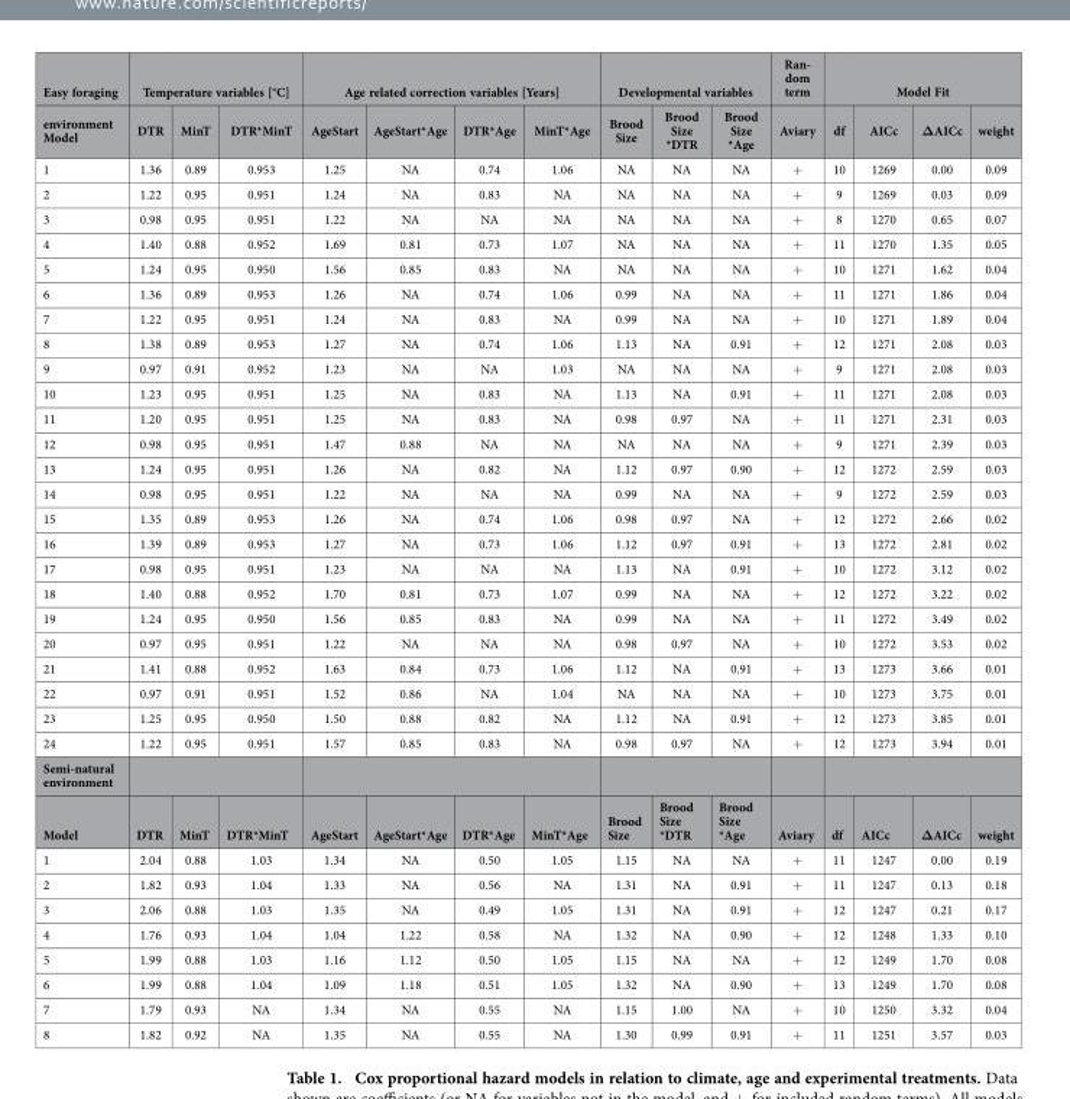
<table><thead><tr><td rowspan="2">Easy foraging environment Model</td><td colspan="3">Temperature variables [°C]</td><td colspan="4">Age related correction variables [Years]</td><td colspan="3">Developmental variables</td><td rowspan="2">Ran- dom term Aviary</td><td colspan="4">Model Fit</td></tr><tr><td>DTR</td><td>MinT</td><td>DTR*MinT</td><td>AgeStart</td><td>AgeStart*Age</td><td>DTR*Age</td><td>MinT*Age</td><td>Brood Size</td><td>Brood Size *DTR</td><td>Brood Size *Age</td><td>df</td><td>AICc</td><td>ΔAICc</td><td>weight</td></tr></thead><tbody><tr><td>1</td><td>1.36</td><td>0.89</td><td>0.953</td><td>1.25</td><td>NA</td><td>0.74</td><td>1.06</td><td>NA</td><td>NA</td><td>NA</td><td>+</td><td>10</td><td>1269</td><td>0.00</td><td>0.09</td></tr><tr><td>2</td><td>1.22</td><td>0.95</td><td>0.951</td><td>1.24</td><td>NA</td><td>0.83</td><td>NA</td><td>NA</td><td>NA</td><td>NA</td><td>+</td><td>9</td><td>1269</td><td>0.03</td><td>0.09</td></tr><tr><td>3</td><td>0.98</td><td>0.95</td><td>0.951</td><td>1.22</td><td>NA</td><td>NA</td><td>NA</td><td>NA</td><td>NA</td><td>NA</td><td>+</td><td>8</td><td>1270</td><td>0.65</td><td>0.07</td></tr><tr><td>4</td><td>1.40</td><td>0.88</td><td>0.952</td><td>1.69</td><td>0.81</td><td>0.73</td><td>1.07</td><td>NA</td><td>NA</td><td>NA</td><td>+</td><td>11</td><td>1270</td><td>1.35</td><td>0.05</td></tr><tr><td>5</td><td>1.24</td><td>0.95</td><td>0.950</td><td>1.56</td><td>0.85</td><td>0.83</td><td>NA</td><td>NA</td><td>NA</td><td>NA</td><td>+</td><td>10</td><td>1271</td><td>1.62</td><td>0.04</td></tr><tr><td>6</td><td>1.36</td><td>0.89</td><td>0.953</td><td>1.26</td><td>NA</td><td>0.74</td><td>1.06</td><td>0.99</td><td>NA</td><td>NA</td><td>+</td><td>11</td><td>1271</td><td>1.86</td><td>0.04</td></tr><tr><td>7</td><td>1.22</td><td>0.95</td><td>0.951</td><td>1.24</td><td>NA</td><td>0.83</td><td>NA</td><td>0.99</td><td>NA</td><td>NA</td><td>+</td><td>10</td><td>1271</td><td>1.89</td><td>0.04</td></tr><tr><td>8</td><td>1.38</td><td>0.89</td><td>0.953</td><td>1.27</td><td>NA</td><td>0.74</td><td>1.06</td><td>1.13</td><td>NA</td><td>0.91</td><td>+</td><td>12</td><td>1271</td><td>2.08</td><td>0.03</td></tr><tr><td>9</td><td>0.97</td><td>0.91</td><td>0.952</td><td>1.23</td><td>NA</td><td>NA</td><td>1.03</td><td>NA</td><td>NA</td><td>NA</td><td>+</td><td>9</td><td>1271</td><td>2.08</td><td>0.03</td></tr><tr><td>10</td><td>1.23</td><td>0.95</td><td>0.951</td><td>1.25</td><td>NA</td><td>0.83</td><td>NA</td><td>1.13</td><td>NA</td><td>0.91</td><td>+</td><td>11</td><td>1271</td><td>2.08</td><td>0.03</td></tr><tr><td>11</td><td>1.20</td><td>0.95</td><td>0.951</td><td>1.25</td><td>NA</td><td>0.83</td><td>NA</td><td>0.98</td><td>0.97</td><td>NA</td><td>+</td><td>11</td><td>1271</td><td>2.31</td><td>0.03</td></tr><tr><td>12</td><td>0.98</td><td>0.95</td><td>0.951</td><td>1.47</td><td>0.88</td><td>NA</td><td>NA</td><td>NA</td><td>NA</td><td>NA</td><td>+</td><td>9</td><td>1271</td><td>2.39</td><td>0.03</td></tr><tr><td>13</td><td>1.24</td><td>0.95</td><td>0.951</td><td>1.26</td><td>NA</td><td>0.82</td><td>NA</td><td>1.12</td><td>0.97</td><td>0.90</td><td>+</td><td>12</td><td>1272</td><td>2.59</td><td>0.03</td></tr><tr><td>14</td><td>0.98</td><td>0.95</td><td>0.951</td><td>1.22</td><td>NA</td><td>NA</td><td>NA</td><td>0.99</td><td>NA</td><td>NA</td><td>+</td><td>9</td><td>1272</td><td>2.59</td><td>0.03</td></tr><tr><td>15</td><td>1.35</td><td>0.89</td><td>0.953</td><td>1.26</td><td>NA</td><td>0.74</td><td>1.06</td><td>0.98</td><td>0.97</td><td>NA</td><td>+</td><td>12</td><td>1272</td><td>2.66</td><td>0.02</td></tr><tr><td>16</td><td>1.39</td><td>0.89</td><td>0.953</td><td>1.27</td><td>NA</td><td>0.73</td><td>1.06</td><td>1.12</td><td>0.97</td><td>0.91</td><td>+</td><td>13</td><td>1272</td><td>2.81</td><td>0.02</td></tr><tr><td>17</td><td>0.98</td><td>0.95</td><td>0.951</td><td>1.23</td><td>NA</td><td>NA</td><td>NA</td><td>1.13</td><td>NA</td><td>0.91</td><td>+</td><td>10</td><td>1272</td><td>3.12</td><td>0.02</td></tr><tr><td>18</td><td>1.40</td><td>0.88</td><td>0.952</td><td>1.70</td><td>0.81</td><td>0.73</td><td>1.07</td><td>0.99</td><td>NA</td><td>NA</td><td>+</td><td>12</td><td>1272</td><td>3.22</td><td>0.02</td></tr><tr><td>19</td><td>1.24</td><td>0.95</td><td>0.950</td><td>1.56</td><td>0.85</td><td>0.83</td><td>NA</td><td>0.99</td><td>NA</td><td>NA</td><td>+</td><td>11</td><td>1272</td><td>3.49</td><td>0.02</td></tr><tr><td>20</td><td>0.97</td><td>0.95</td><td>0.951</td><td>1.22</td><td>NA</td><td>NA</td><td>NA</td><td>0.98</td><td>0.97</td><td>NA</td><td>+</td><td>10</td><td>1272</td><td>3.53</td><td>0.02</td></tr><tr><td>21</td><td>1.41</td><td>0.88</td><td>0.952</td><td>1.63</td><td>0.84</td><td>0.73</td><td>1.06</td><td>1.12</td><td>NA</td><td>0.91</td><td>+</td><td>13</td><td>1273</td><td>3.66</td><td>0.01</td></tr><tr><td>22</td><td>0.97</td><td>0.91</td><td>0.951</td><td>1.52</td><td>0.86</td><td>NA</td><td>1.04</td><td>NA</td><td>NA</td><td>NA</td><td>+</td><td>10</td><td>1273</td><td>3.75</td><td>0.01</td></tr><tr><td>23</td><td>1.25</td><td>0.95</td><td>0.950</td><td>1.50</td><td>0.88</td><td>0.82</td><td>NA</td><td>1.12</td><td>NA</td><td>0.91</td><td>+</td><td>12</td><td>1273</td><td>3.85</td><td>0.01</td></tr><tr><td>24</td><td>1.22</td><td>0.95</td><td>0.951</td><td>1.57</td><td>0.85</td><td>0.83</td><td>NA</td><td>0.98</td><td>0.97</td><td>NA</td><td>+</td><td>12</td><td>1273</td><td>3.94</td><td>0.01</td></tr><tr><td colspan="16">Semi-natural environment</td></tr><tr><td>Model</td><td>DTR</td><td>MinT</td><td>DTR*MinT</td><td>AgeStart</td><td>AgeStart*Age</td><td>DTR*Age</td><td>MinT*Age</td><td>Brood Size</td><td>Brood Size *DTR</td><td>Brood Size *Age</td><td>Aviary</td><td>df</td><td>AICc</td><td>ΔAICc</td><td>weight</td></tr><tr><td>1</td><td>2.04</td><td>0.88</td><td>1.03</td><td>1.34</td><td>NA</td><td>0.50</td><td>1.05</td><td>1.15</td><td>NA</td><td>NA</td><td>+</td><td>11</td><td>1247</td><td>0.00</td><td>0.19</td></tr><tr><td>2</td><td>1.82</td><td>0.93</td><td>1.04</td><td>1.33</td><td>NA</td><td>0.56</td><td>NA</td><td>1.31</td><td>NA</td><td>0.91</td><td>+</td><td>11</td><td>1247</td><td>0.13</td><td>0.18</td></tr><tr><td>3</td><td>2.06</td><td>0.88</td><td>1.03</td><td>1.35</td><td>NA</td><td>0.49</td><td>1.05</td><td>1.31</td><td>NA</td><td>0.91</td><td>+</td><td>12</td><td>1247</td><td>0.21</td><td>0.17</td></tr><tr><td>4</td><td>1.76</td><td>0.93</td><td>1.04</td><td>1.04</td><td>1.22</td><td>0.58</td><td>NA</td><td>1.32</td><td>NA</td><td>0.90</td><td>+</td><td>12</td><td>1248</td><td>1.33</td><td>0.10</td></tr><tr><td>5</td><td>1.99</td><td>0.88</td><td>1.03</td><td>1.16</td><td>1.12</td><td>0.50</td><td>1.05</td><td>1.15</td><td>NA</td><td>NA</td><td>+</td><td>12</td><td>1249</td><td>1.70</td><td>0.08</td></tr><tr><td>6</td><td>1.99</td><td>0.88</td><td>1.04</td><td>1.09</td><td>1.18</td><td>0.51</td><td>1.05</td><td>1.32</td><td>NA</td><td>0.90</td><td>+</td><td>13</td><td>1249</td><td>1.70</td><td>0.08</td></tr><tr><td>7</td><td>1.79</td><td>0.93</td><td>NA</td><td>1.34</td><td>NA</td><td>0.55</td><td>NA</td><td>1.15</td><td>1.00</td><td>NA</td><td>+</td><td>10</td><td>1250</td><td>3.32</td><td>0.04</td></tr><tr><td>8</td><td>1.82</td><td>0.92</td><td>NA</td><td>1.35</td><td>NA</td><td>0.55</td><td>NA</td><td>1.30</td><td>0.99</td><td>0.91</td><td>+</td><td>11</td><td>1251</td><td>3.57</td><td>0.03</td></tr></tbody></table>